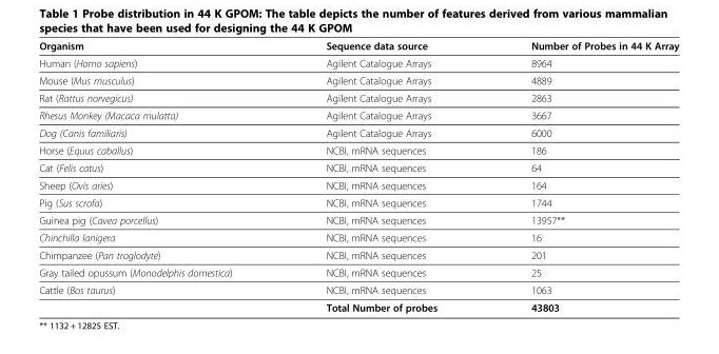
<table><thead><tr><td>Organism</td><td>Sequence data source</td><td>Number of Probes in 44 K Array</td></tr></thead><tbody><tr><td>Human (Homo sapiens)</td><td>Agilent Catalogue Arrays</td><td>8964</td></tr><tr><td>Mouse (Mus musculus)</td><td>Agilent Catalogue Arrays</td><td>4889</td></tr><tr><td>Rat (Rattus norvegicus)</td><td>Agilent Catalogue Arrays</td><td>2863</td></tr><tr><td>Rhesus Monkey (Macaca mulatta)</td><td>Agilent Catalogue Arrays</td><td>3667</td></tr><tr><td>Dog (Canis familiaris)</td><td>Agilent Catalogue Arrays</td><td>6000</td></tr><tr><td>Horse (Equus caballus)</td><td>NCBI, mRNA sequences</td><td>186</td></tr><tr><td>Cat (Felis catus)</td><td>NCBI, mRNA sequences</td><td>64</td></tr><tr><td>Sheep (Ovis aries)</td><td>NCBI, mRNA sequences</td><td>164</td></tr><tr><td>Pig (Sus scrofa)</td><td>NCBI, mRNA sequences</td><td>1744</td></tr><tr><td>Guinea pig (Cavea porcellus)</td><td>NCBI, mRNA sequences</td><td>13957**</td></tr><tr><td>Chinchilla lanigera</td><td>NCBI, mRNA sequences</td><td>16</td></tr><tr><td>Chimpanzee (Pan troglodyte)</td><td>NCBI, mRNA sequences</td><td>201</td></tr><tr><td>Gray tailed opussum (Monodelphis domestica)</td><td>NCBI, mRNA sequences</td><td>25</td></tr><tr><td rowspan="2">Cattle (Bos taurus)</td><td>NCBI, mRNA sequences</td><td>1063</td></tr><tr><td>Total Number of probes</td><td>43803</td></tr></tbody></table>